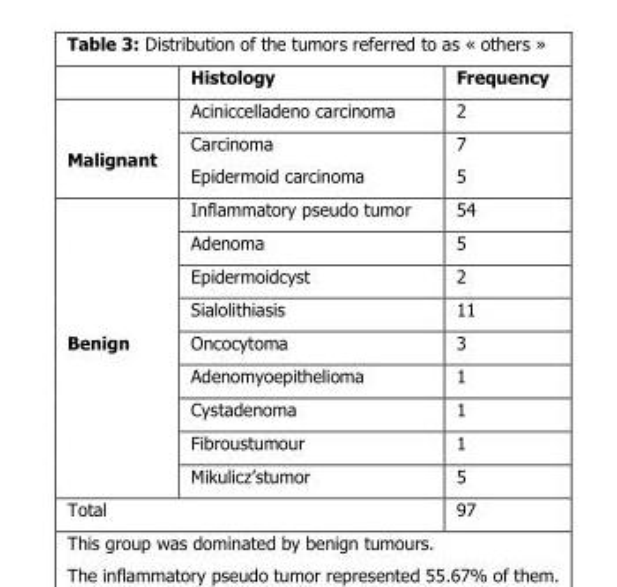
<table><thead><tr><td></td><td>Histology</td><td>Frequency</td></tr></thead><tbody><tr><td rowspan="2">Malignant</td><td>Aciniccelladeno carcinoma</td><td>2</td></tr><tr><td>Carcinoma Epidermoid carcinoma</td><td>7 5</td></tr><tr><td rowspan="9">Benign</td><td>Inflammatory pseudo tumor</td><td>54</td></tr><tr><td>Adenoma</td><td>5</td></tr><tr><td>Epidermoidcyst</td><td>2</td></tr><tr><td>Sialolithiasis</td><td>11</td></tr><tr><td>Oncocytoma</td><td>3</td></tr><tr><td>Adenomyoepithelioma</td><td>1</td></tr><tr><td>Cystadenoma</td><td>1</td></tr><tr><td>Fibroustumour</td><td>1</td></tr><tr><td>Mikulicz’stumor</td><td>5</td></tr><tr><td colspan="2">Total</td><td>97</td></tr></tbody></table>